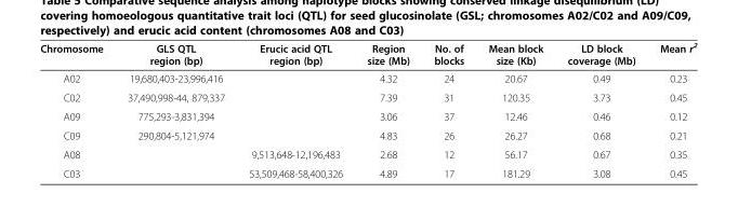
<table><thead><tr><td>Chromosome</td><td>GLS QTL region (bp)</td><td>Erucic acid QTL region (bp)</td><td>Region size (Mb)</td><td>No. of blocks</td><td>Mean block size (Kb)</td><td>LD block coverage (Mb)</td><td>Mean r<sup>2</sup></td></tr></thead><tbody><tr><td>A02</td><td>19,680,403-23,996,416</td><td></td><td>4.32</td><td>24</td><td>20.67</td><td>0.49</td><td>0.23</td></tr><tr><td>C02</td><td>37,490,998-44, 879,337</td><td></td><td>7.39</td><td>31</td><td>120.35</td><td>3.73</td><td>0.45</td></tr><tr><td>A09</td><td>775,293-3,831,394</td><td></td><td>3.06</td><td>37</td><td>12.46</td><td>0.46</td><td>0.12</td></tr><tr><td>C09</td><td>290,804-5,121,974</td><td></td><td>4.83</td><td>26</td><td>26.27</td><td>0.68</td><td>0.21</td></tr><tr><td>A08</td><td></td><td>9,513,648-12,196,483</td><td>2.68</td><td>12</td><td>56.17</td><td>0.67</td><td>0.35</td></tr><tr><td>C03</td><td></td><td>53,509,468-58,400,326</td><td>4.89</td><td>17</td><td>181.29</td><td>3.08</td><td>0.45</td></tr></tbody></table>